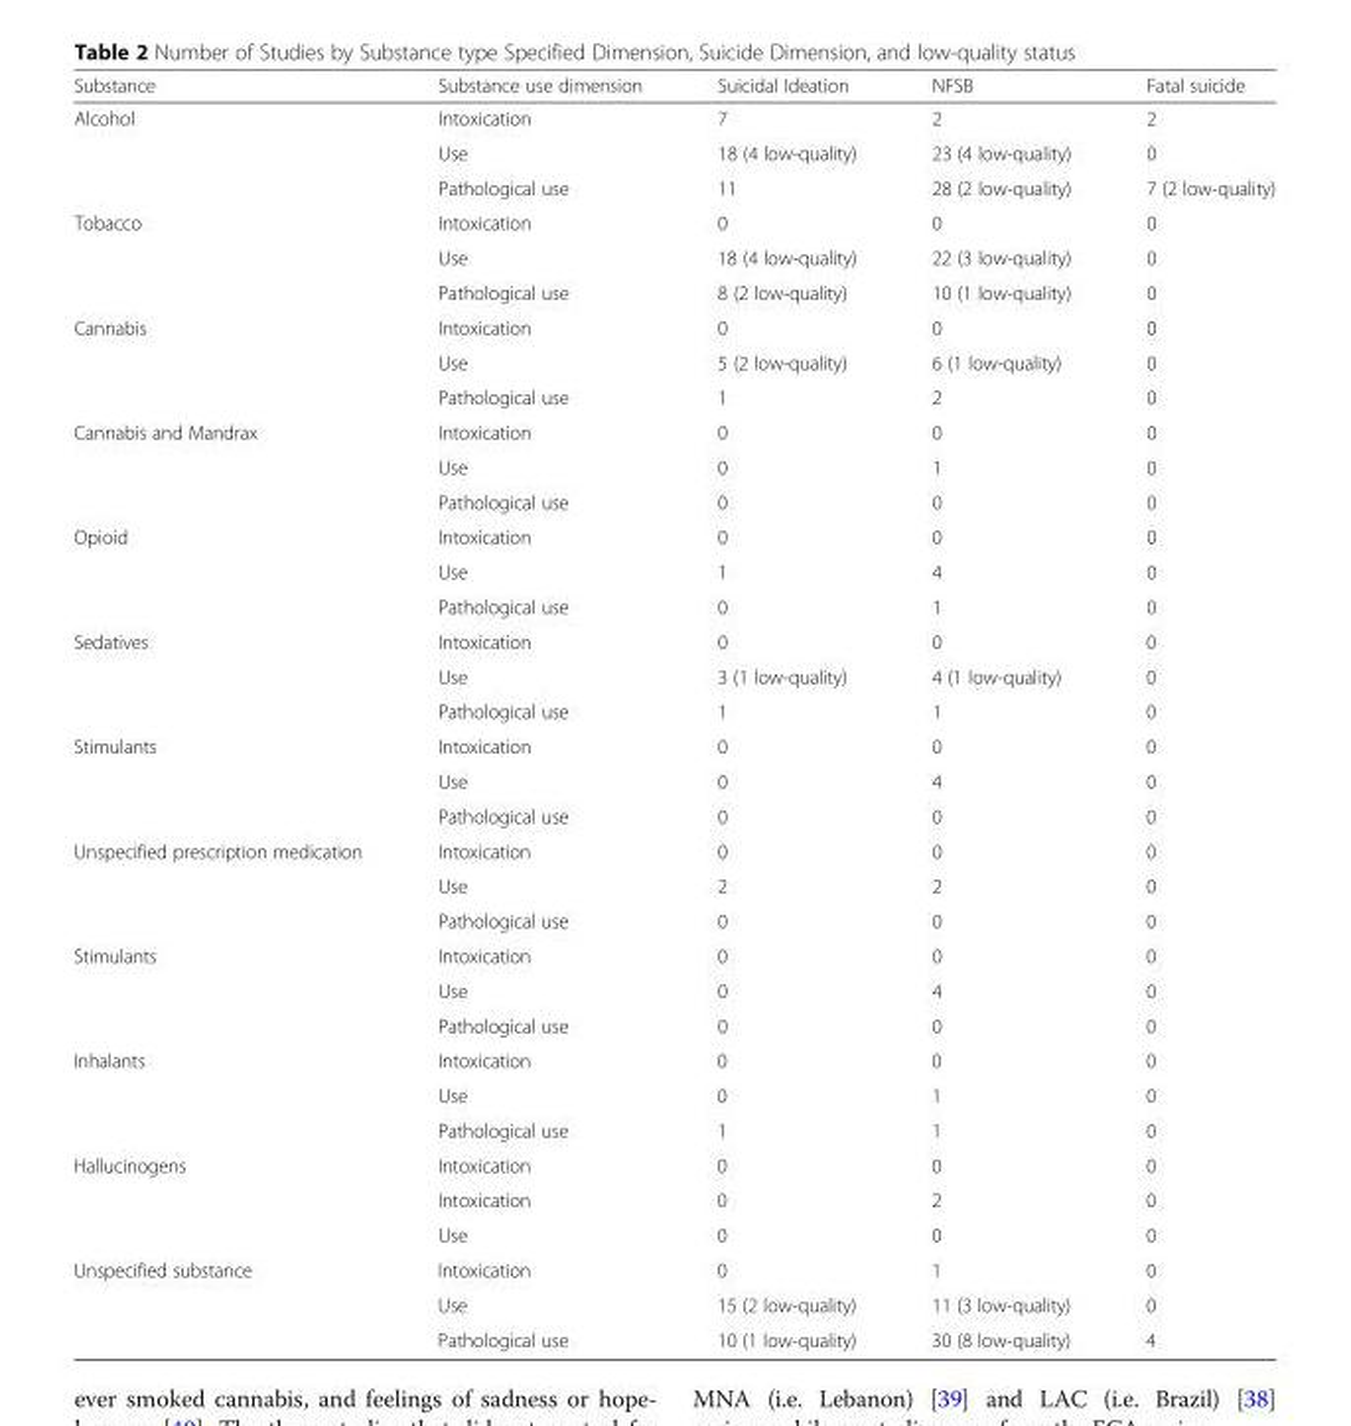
<table><thead><tr><td>Substance</td><td>Substance use dimension</td><td>Suicidal Ideation</td><td>NFSB</td><td>Fatal suicide</td></tr></thead><tbody><tr><td rowspan="3">Alcohol</td><td>Intoxication</td><td>7</td><td>2</td><td>2</td></tr><tr><td>Use</td><td>18 (4 low-quality)</td><td>23 (4 low-quality)</td><td>0</td></tr><tr><td>Pathological use</td><td>11</td><td>28 (2 low-quality)</td><td>7 (2 low-quality)</td></tr><tr><td rowspan="3">Tobacco</td><td>Intoxication</td><td>0</td><td>0</td><td>0</td></tr><tr><td>Use</td><td>18 (4 low-quality)</td><td>22 (3 low-quality)</td><td>0</td></tr><tr><td>Pathological use</td><td>8 (2 low-quality)</td><td>10 (1 low-quality)</td><td>0</td></tr><tr><td rowspan="3">Cannabis</td><td>Intoxication</td><td>0</td><td>0</td><td>0</td></tr><tr><td>Use</td><td>5 (2 low-quality)</td><td>6 (1 low-quality)</td><td>0</td></tr><tr><td>Pathological use</td><td>1</td><td>2</td><td>0</td></tr><tr><td rowspan="3">Cannabis and Mandrax</td><td>Intoxication</td><td>0</td><td>0</td><td>0</td></tr><tr><td>Use</td><td>0</td><td>1</td><td>0</td></tr><tr><td>Pathological use</td><td>0</td><td>0</td><td>0</td></tr><tr><td rowspan="3">Opioid</td><td>Intoxication</td><td>0</td><td>0</td><td>0</td></tr><tr><td>Use</td><td>1</td><td>4</td><td>0</td></tr><tr><td>Pathological use</td><td>0</td><td>1</td><td>0</td></tr><tr><td rowspan="3">Sedatives</td><td>Intoxication</td><td>0</td><td>0</td><td>0</td></tr><tr><td>Use</td><td>3 (1 low-quality)</td><td>4 (1 low-quality)</td><td>0</td></tr><tr><td>Pathological use</td><td>1</td><td>1</td><td>0</td></tr><tr><td rowspan="3">Stimulants</td><td>Intoxication</td><td>0</td><td>0</td><td>0</td></tr><tr><td>Use</td><td>0</td><td>4</td><td>0</td></tr><tr><td>Pathological use</td><td>0</td><td>0</td><td>0</td></tr><tr><td rowspan="3">Unspecified prescription medication</td><td>Intoxication</td><td>0</td><td>0</td><td>0</td></tr><tr><td>Use</td><td>2</td><td>2</td><td>0</td></tr><tr><td>Pathological use</td><td>0</td><td>0</td><td>0</td></tr><tr><td rowspan="3">Stimulants</td><td>Intoxication</td><td>0</td><td>0</td><td>0</td></tr><tr><td>Use</td><td>0</td><td>4</td><td>0</td></tr><tr><td>Pathological use</td><td>0</td><td>0</td><td>0</td></tr><tr><td rowspan="3">Inhalants</td><td>Intoxication</td><td>0</td><td>0</td><td>0</td></tr><tr><td>Use</td><td>0</td><td>1</td><td>0</td></tr><tr><td>Pathological use</td><td>1</td><td>1</td><td>0</td></tr><tr><td rowspan="3">Hallucinogens</td><td>Intoxication</td><td>0</td><td>0</td><td>0</td></tr><tr><td>Intoxication</td><td>0</td><td>2</td><td>0</td></tr><tr><td>Use</td><td>0</td><td>0</td><td>0</td></tr><tr><td rowspan="3">Unspecified substance</td><td>Intoxication</td><td>0</td><td>1</td><td>0</td></tr><tr><td>Use</td><td>15 (2 low-quality)</td><td>11 (3 low-quality)</td><td>0</td></tr><tr><td>Pathological use</td><td>10 (1 low-quality)</td><td>30 (8 low-quality)</td><td>4</td></tr></tbody></table>